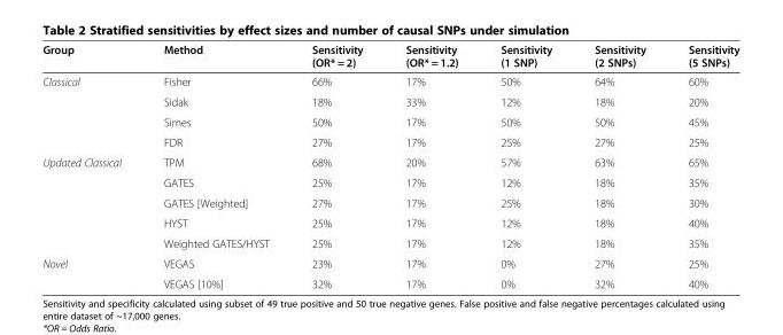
<table><thead><tr><td>Group</td><td>Method</td><td>Sensitivity (OR* = 2)</td><td>Sensitivity (OR* = 1.2)</td><td>Sensitivity (1 SNP)</td><td>Sensitivity (2 SNPs)</td><td>Sensitivity (5 SNPs)</td></tr></thead><tbody><tr><td rowspan="4">Classical</td><td>Fisher</td><td>66%</td><td>17%</td><td>50%</td><td>64%</td><td>60%</td></tr><tr><td>Sidak</td><td>18%</td><td>33%</td><td>12%</td><td>18%</td><td>20%</td></tr><tr><td>Simes</td><td>50%</td><td>17%</td><td>50%</td><td>50%</td><td>45%</td></tr><tr><td>FDR</td><td>27%</td><td>17%</td><td>25%</td><td>27%</td><td>25%</td></tr><tr><td rowspan="5">Updated Classical</td><td>TPM</td><td>68%</td><td>20%</td><td>57%</td><td>63%</td><td>65%</td></tr><tr><td>GATES</td><td>25%</td><td>17%</td><td>12%</td><td>18%</td><td>35%</td></tr><tr><td>GATES [Weighted]</td><td>27%</td><td>17%</td><td>25%</td><td>18%</td><td>30%</td></tr><tr><td>HYST</td><td>25%</td><td>17%</td><td>12%</td><td>18%</td><td>40%</td></tr><tr><td>Weighted GATES/HYST</td><td>25%</td><td>17%</td><td>12%</td><td>18%</td><td>35%</td></tr><tr><td rowspan="2">Novel</td><td>VEGAS</td><td>23%</td><td>17%</td><td>0%</td><td>27%</td><td>25%</td></tr><tr><td>VEGAS [10%]</td><td>32%</td><td>17%</td><td>0%</td><td>32%</td><td>40%</td></tr></tbody></table>